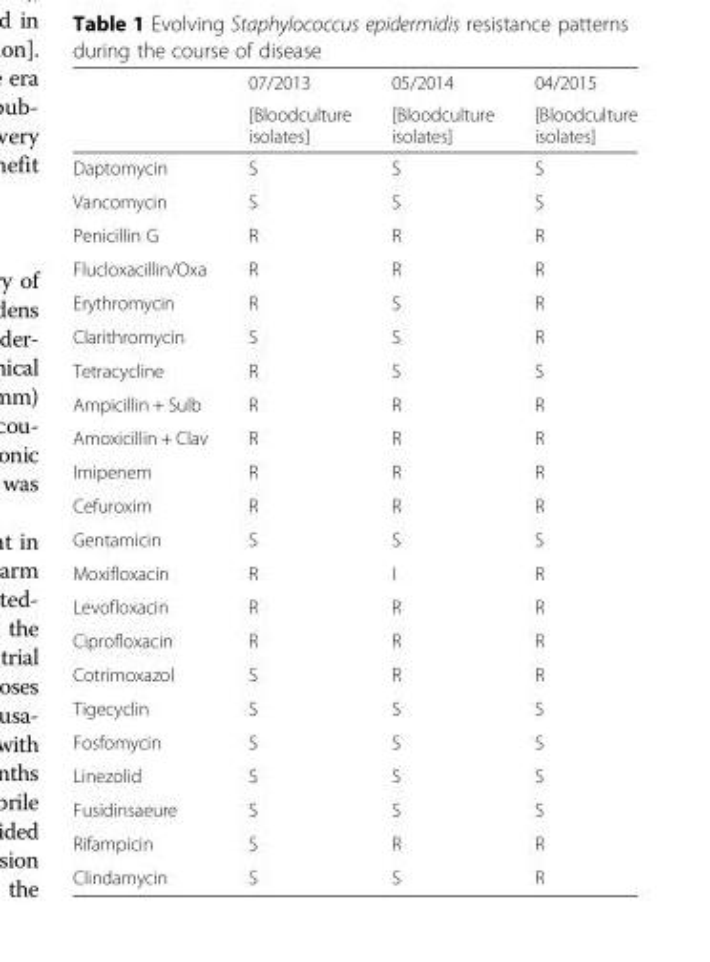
<table><thead><tr><td rowspan="2"></td><td rowspan="2">07/2013 [Bloodculture isolates]</td><td rowspan="2">05/2014 [Bloodculture isolates]</td><td rowspan="2">04/2015 [Bloodculture isolates]</td></tr><tr></tr></thead><tbody><tr><td>Daptomycin</td><td>S</td><td>S</td><td>S</td></tr><tr><td>Vancomycin</td><td>S</td><td>S</td><td>S</td></tr><tr><td>Penicillin G</td><td>R</td><td>R</td><td>R</td></tr><tr><td>Flucloxacillin/Oxa</td><td>R</td><td>R</td><td>R</td></tr><tr><td>Erythromycin</td><td>R</td><td>S</td><td>R</td></tr><tr><td>Clarithromycin</td><td>S</td><td>S</td><td>R</td></tr><tr><td>Tetracycline</td><td>R</td><td>S</td><td>S</td></tr><tr><td>Ampicillin + Sulb</td><td>R</td><td>R</td><td>R</td></tr><tr><td>Amoxicillin + Clav</td><td>R</td><td>R</td><td>R</td></tr><tr><td>Imipenem</td><td>R</td><td>R</td><td>R</td></tr><tr><td>Cefuroxim</td><td>R</td><td>R</td><td>R</td></tr><tr><td>Gentamicin</td><td>S</td><td>S</td><td>S</td></tr><tr><td>Moxifloxacin</td><td>R</td><td>I</td><td>R</td></tr><tr><td>Levofloxacin</td><td>R</td><td>R</td><td>R</td></tr><tr><td>Ciprofloxacin</td><td>R</td><td>R</td><td>R</td></tr><tr><td>Cotrimoxazol</td><td>S</td><td>R</td><td>R</td></tr><tr><td>Tigecyclin</td><td>S</td><td>S</td><td>S</td></tr><tr><td>Fosfomycin</td><td>S</td><td>S</td><td>S</td></tr><tr><td>Linezolid</td><td>S</td><td>S</td><td>S</td></tr><tr><td>Fusidinsaeure</td><td>S</td><td>S</td><td>S</td></tr><tr><td>Rifampicin</td><td>S</td><td>R</td><td>R</td></tr><tr><td>Clindamycin</td><td>S</td><td>S</td><td>R</td></tr></tbody></table>